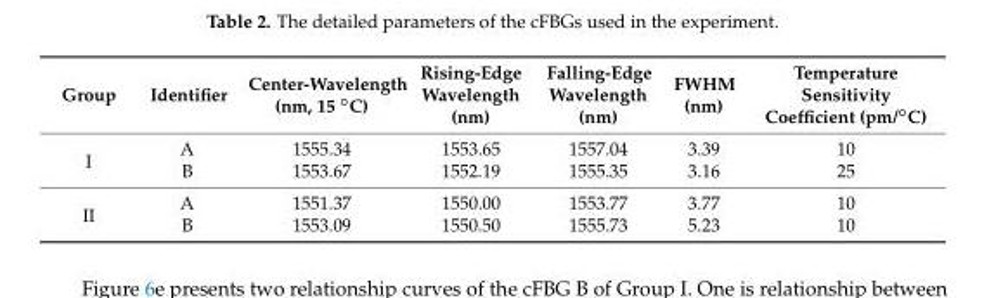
<table><thead><tr><td>Group</td><td>Identifier</td><td>Center-Wavelength (nm, 15 ◦C)</td><td>Rising-Edge Wavelength (nm)</td><td>Falling-Edge Wavelength (nm)</td><td>FWHM (nm)</td><td>Temperature Sensitivity Coefficient (pm/◦C)</td></tr></thead><tbody><tr><td rowspan="2">I</td><td>A</td><td>1555.34</td><td>1553.65</td><td>1557.04</td><td>3.39</td><td>10</td></tr><tr><td>B</td><td>1553.67</td><td>1552.19</td><td>1555.35</td><td>3.16</td><td>25</td></tr><tr><td rowspan="2">II</td><td>A</td><td>1551.37</td><td>1550.00</td><td>1553.77</td><td>3.77</td><td>10</td></tr><tr><td>B</td><td>1553.09</td><td>1550.50</td><td>1555.73</td><td>5.23</td><td>10</td></tr></tbody></table>